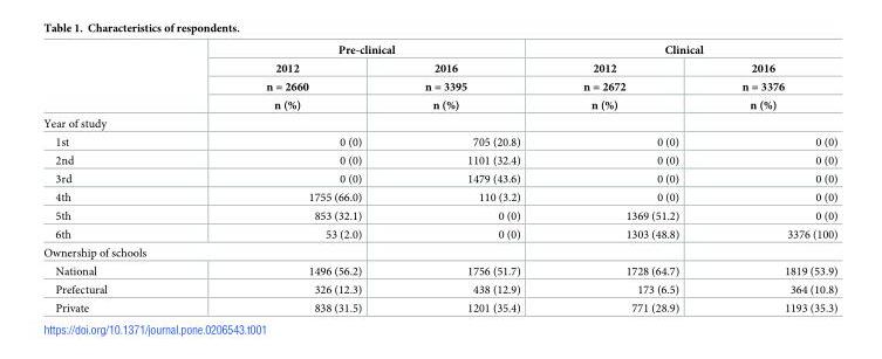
<table><thead><tr><td rowspan="4"></td><td colspan="2">Pre-clinical</td><td colspan="2">Clinical</td></tr><tr><td rowspan="3">2012 n = 2660 n (%)</td><td rowspan="3">2016 n = 3395 n (%)</td><td rowspan="3">2012 n = 2672 n (%)</td><td rowspan="3">2016 n = 3376 n (%)</td></tr><tr></tr><tr></tr></thead><tbody><tr><td colspan="5">Year of study</td></tr><tr><td>1st</td><td>0 (0)</td><td>705 (20.8)</td><td>0 (0)</td><td>0 (0)</td></tr><tr><td>2nd</td><td>0 (0)</td><td>1101 (32.4)</td><td>0 (0)</td><td>0 (0)</td></tr><tr><td>3rd</td><td>0 (0)</td><td>1479 (43.6)</td><td>0 (0)</td><td>0 (0)</td></tr><tr><td>4th</td><td>1755 (66.0)</td><td>110 (3.2)</td><td>0 (0)</td><td>0 (0)</td></tr><tr><td>5th</td><td>853 (32.1)</td><td>0 (0)</td><td>1369 (51.2)</td><td>0 (0)</td></tr><tr><td>6th</td><td>53 (2.0)</td><td>0 (0)</td><td>1303 (48.8)</td><td>3376 (100)</td></tr><tr><td colspan="5">Ownership of schools</td></tr><tr><td>National</td><td>1496 (56.2)</td><td>1756 (51.7)</td><td>1728 (64.7)</td><td>1819 (53.9)</td></tr><tr><td>Prefectural</td><td>326 (12.3)</td><td>438 (12.9)</td><td>173 (6.5)</td><td>364 (10.8)</td></tr><tr><td>Private</td><td>838 (31.5)</td><td>1201 (35.4)</td><td>771 (28.9)</td><td>1193 (35.3)</td></tr></tbody></table>